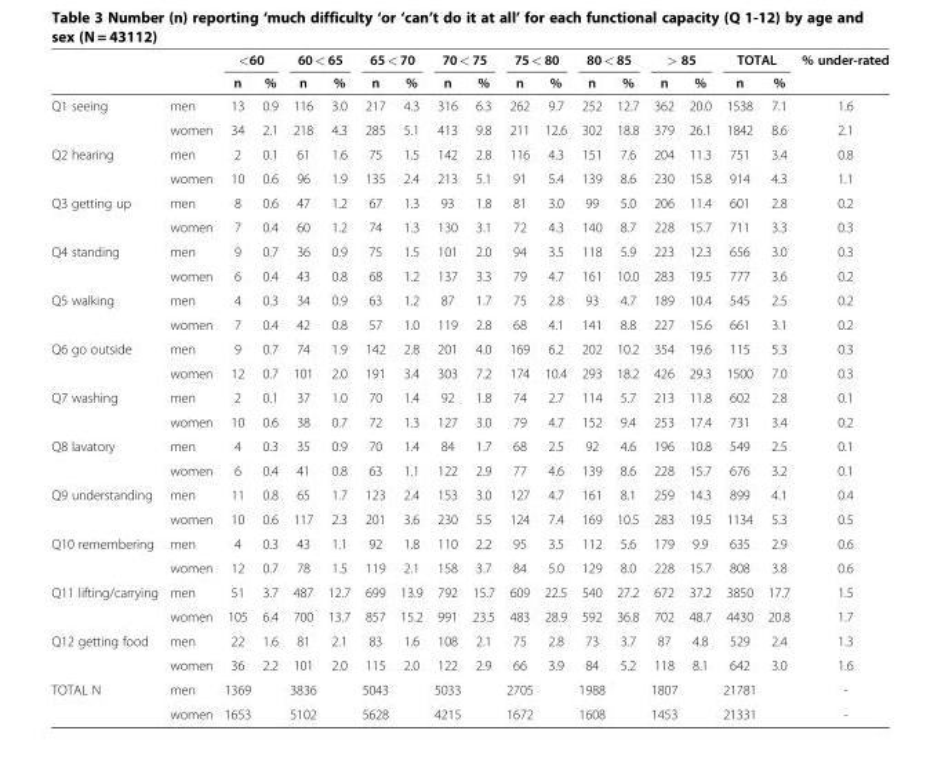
<table><thead><tr><td rowspan="2"></td><td rowspan="2"></td><td colspan="2">&lt;60</td><td colspan="2">60 &lt; 65</td><td colspan="2">65 &lt; 70</td><td colspan="2">70 &lt; 75</td><td colspan="2">75 &lt; 80</td><td colspan="2">80 &lt; 85</td><td colspan="2">&gt; 85</td><td colspan="2">TOTAL</td><td rowspan="2">% under-rated</td></tr><tr><td>n</td><td>%</td><td>n</td><td>%</td><td>n</td><td>%</td><td>n</td><td>%</td><td>n</td><td>%</td><td>n</td><td>%</td><td>n</td><td>%</td><td>n</td><td>%</td></tr></thead><tbody><tr><td rowspan="2">Q1 seeing</td><td>men</td><td>13</td><td>0.9</td><td>116</td><td>3.0</td><td>217</td><td>4.3</td><td>316</td><td>6.3</td><td>262</td><td>9.7</td><td>252</td><td>12.7</td><td>362</td><td>20.0</td><td>1538</td><td>7.1</td><td>1.6</td></tr><tr><td>women</td><td>34</td><td>2.1</td><td>218</td><td>4.3</td><td>285</td><td>5.1</td><td>413</td><td>9.8</td><td>211</td><td>12.6</td><td>302</td><td>18.8</td><td>379</td><td>26.1</td><td>1842</td><td>8.6</td><td>2.1</td></tr><tr><td rowspan="2">Q2 hearing</td><td>men</td><td>2</td><td>0.1</td><td>61</td><td>1.6</td><td>75</td><td>1.5</td><td>142</td><td>2.8</td><td>116</td><td>4.3</td><td>151</td><td>7.6</td><td>204</td><td>11.3</td><td>751</td><td>3.4</td><td>0.8</td></tr><tr><td>women</td><td>10</td><td>0.6</td><td>96</td><td>1.9</td><td>135</td><td>2.4</td><td>213</td><td>5.1</td><td>91</td><td>5.4</td><td>139</td><td>8.6</td><td>230</td><td>15.8</td><td>914</td><td>4.3</td><td>1.1</td></tr><tr><td rowspan="2">Q3 getting up</td><td>men</td><td>8</td><td>0.6</td><td>47</td><td>1.2</td><td>67</td><td>1.3</td><td>93</td><td>1.8</td><td>81</td><td>3.0</td><td>99</td><td>5.0</td><td>206</td><td>11.4</td><td>601</td><td>2.8</td><td>0.2</td></tr><tr><td>women</td><td>7</td><td>0.4</td><td>60</td><td>1.2</td><td>74</td><td>1.3</td><td>130</td><td>3.1</td><td>72</td><td>4.3</td><td>140</td><td>8.7</td><td>228</td><td>15.7</td><td>711</td><td>3.3</td><td>0.3</td></tr><tr><td rowspan="2">Q4 standing</td><td>men</td><td>9</td><td>0.7</td><td>36</td><td>0.9</td><td>75</td><td>1.5</td><td>101</td><td>2.0</td><td>94</td><td>3.5</td><td>118</td><td>5.9</td><td>223</td><td>12.3</td><td>656</td><td>3.0</td><td>0.3</td></tr><tr><td>women</td><td>6</td><td>0.4</td><td>43</td><td>0.8</td><td>68</td><td>1.2</td><td>137</td><td>3.3</td><td>79</td><td>4.7</td><td>161</td><td>10.0</td><td>283</td><td>19.5</td><td>777</td><td>3.6</td><td>0.2</td></tr><tr><td rowspan="2">Q5 walking</td><td>men</td><td>4</td><td>0.3</td><td>34</td><td>0.9</td><td>63</td><td>1.2</td><td>87</td><td>1.7</td><td>75</td><td>2.8</td><td>93</td><td>4.7</td><td>189</td><td>10.4</td><td>545</td><td>2.5</td><td>0.2</td></tr><tr><td>women</td><td>7</td><td>0.4</td><td>42</td><td>0.8</td><td>57</td><td>1.0</td><td>119</td><td>2.8</td><td>68</td><td>4.1</td><td>141</td><td>8.8</td><td>227</td><td>15.6</td><td>661</td><td>3.1</td><td>0.2</td></tr><tr><td rowspan="2">Q6 go outside</td><td>men</td><td>9</td><td>0.7</td><td>74</td><td>1.9</td><td>142</td><td>2.8</td><td>201</td><td>4.0</td><td>169</td><td>6.2</td><td>202</td><td>10.2</td><td>354</td><td>19.6</td><td>115</td><td>5.3</td><td>0.3</td></tr><tr><td>women</td><td>12</td><td>0.7</td><td>101</td><td>2.0</td><td>191</td><td>3.4</td><td>303</td><td>7.2</td><td>174</td><td>10.4</td><td>293</td><td>18.2</td><td>426</td><td>29.3</td><td>1500</td><td>7.0</td><td>0.3</td></tr><tr><td rowspan="2">Q7 washing</td><td>men</td><td>2</td><td>0.1</td><td>37</td><td>1.0</td><td>70</td><td>1.4</td><td>92</td><td>1.8</td><td>74</td><td>2.7</td><td>114</td><td>5.7</td><td>213</td><td>11.8</td><td>602</td><td>2.8</td><td>0.1</td></tr><tr><td>women</td><td>10</td><td>0.6</td><td>38</td><td>0.7</td><td>72</td><td>1.3</td><td>127</td><td>3.0</td><td>79</td><td>4.7</td><td>152</td><td>9.4</td><td>253</td><td>17.4</td><td>731</td><td>3.4</td><td>0.2</td></tr><tr><td rowspan="2">Q8 lavatory</td><td>men</td><td>4</td><td>0.3</td><td>35</td><td>0.9</td><td>70</td><td>1.4</td><td>84</td><td>1.7</td><td>68</td><td>2.5</td><td>92</td><td>4.6</td><td>196</td><td>10.8</td><td>549</td><td>2.5</td><td>0.1</td></tr><tr><td>women</td><td>6</td><td>0.4</td><td>41</td><td>0.8</td><td>63</td><td>1.1</td><td>122</td><td>2.9</td><td>77</td><td>4.6</td><td>139</td><td>8.6</td><td>228</td><td>15.7</td><td>676</td><td>3.2</td><td>0.1</td></tr><tr><td rowspan="2">Q9 understanding</td><td>men</td><td>11</td><td>0.8</td><td>65</td><td>1.7</td><td>123</td><td>2.4</td><td>153</td><td>3.0</td><td>127</td><td>4.7</td><td>161</td><td>8.1</td><td>259</td><td>14.3</td><td>899</td><td>4.1</td><td>0.4</td></tr><tr><td>women</td><td>10</td><td>0.6</td><td>117</td><td>2.3</td><td>201</td><td>3.6</td><td>230</td><td>5.5</td><td>124</td><td>7.4</td><td>169</td><td>10.5</td><td>283</td><td>19.5</td><td>1134</td><td>5.3</td><td>0.5</td></tr><tr><td rowspan="2">Q10 remembering</td><td>men</td><td>4</td><td>0.3</td><td>43</td><td>1.1</td><td>92</td><td>1.8</td><td>110</td><td>2.2</td><td>95</td><td>3.5</td><td>112</td><td>5.6</td><td>179</td><td>9.9</td><td>635</td><td>2.9</td><td>0.6</td></tr><tr><td>women</td><td>12</td><td>0.7</td><td>78</td><td>1.5</td><td>119</td><td>2.1</td><td>158</td><td>3.7</td><td>84</td><td>5.0</td><td>129</td><td>8.0</td><td>228</td><td>15.7</td><td>808</td><td>3.8</td><td>0.6</td></tr><tr><td rowspan="2">Q11 lifting/carrying</td><td>men</td><td>51</td><td>3.7</td><td>487</td><td>12.7</td><td>699</td><td>13.9</td><td>792</td><td>15.7</td><td>609</td><td>22.5</td><td>540</td><td>27.2</td><td>672</td><td>37.2</td><td>3850</td><td>17.7</td><td>1.5</td></tr><tr><td>women</td><td>105</td><td>6.4</td><td>700</td><td>13.7</td><td>857</td><td>15.2</td><td>991</td><td>23.5</td><td>483</td><td>28.9</td><td>592</td><td>36.8</td><td>702</td><td>48.7</td><td>4430</td><td>20.8</td><td>1.7</td></tr><tr><td rowspan="2">Q12 getting food</td><td>men</td><td>22</td><td>1.6</td><td>81</td><td>2.1</td><td>83</td><td>1.6</td><td>108</td><td>2.1</td><td>75</td><td>2.8</td><td>73</td><td>3.7</td><td>87</td><td>4.8</td><td>529</td><td>2.4</td><td>1.3</td></tr><tr><td>women</td><td>36</td><td>2.2</td><td>101</td><td>2.0</td><td>115</td><td>2.0</td><td>122</td><td>2.9</td><td>66</td><td>3.9</td><td>84</td><td>5.2</td><td>118</td><td>8.1</td><td>642</td><td>3.0</td><td>1.6</td></tr><tr><td rowspan="2">TOTAL N</td><td>men</td><td>1369</td><td></td><td>3836</td><td></td><td>5043</td><td></td><td>5033</td><td></td><td>2705</td><td></td><td>1988</td><td></td><td>1807</td><td></td><td>21781</td><td></td><td>-</td></tr><tr><td>women</td><td>1653</td><td></td><td>5102</td><td></td><td>5628</td><td></td><td>4215</td><td></td><td>1672</td><td></td><td>1608</td><td></td><td>1453</td><td></td><td>21331</td><td></td><td>-</td></tr></tbody></table>